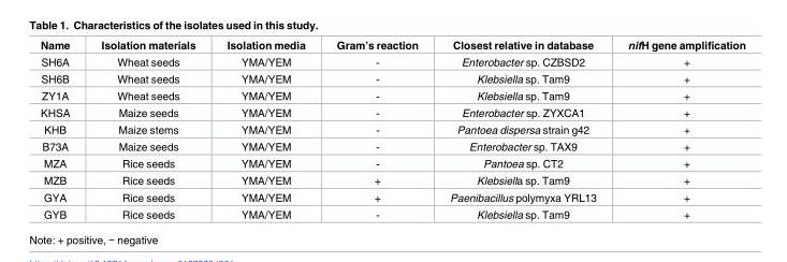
<table><thead><tr><td>Name</td><td>Isolation materials</td><td>Isolation media</td><td>Gram’s reaction</td><td>Closest relative in database</td><td>nifH gene amplification</td></tr></thead><tbody><tr><td>SH6A</td><td>Wheat seeds</td><td>YMA/YEM</td><td>-</td><td>Enterobacter sp. CZBSD2</td><td>+</td></tr><tr><td>SH6B</td><td>Wheat seeds</td><td>YMA/YEM</td><td>-</td><td>Klebsiella sp. Tam9</td><td>+</td></tr><tr><td>ZY1A</td><td>Wheat seeds</td><td>YMA/YEM</td><td>-</td><td>Klebsiella sp. Tam9</td><td>+</td></tr><tr><td>KHSA</td><td>Maize seeds</td><td>YMA/YEM</td><td>-</td><td>Enterobacter sp. ZYXCA1</td><td>+</td></tr><tr><td>KHB</td><td>Maize stems</td><td>YMA/YEM</td><td>-</td><td>Pantoea dispersa strain g42</td><td>+</td></tr><tr><td>B73A</td><td>Maize seeds</td><td>YMA/YEM</td><td>-</td><td>Enterobacter sp. TAX9</td><td>+</td></tr><tr><td>MZA</td><td>Rice seeds</td><td>YMA/YEM</td><td>-</td><td>Pantoea sp. CT2</td><td>+</td></tr><tr><td>MZB</td><td>Rice seeds</td><td>YMA/YEM</td><td>+</td><td>Klebsiella sp. Tam9</td><td>+</td></tr><tr><td>GYA</td><td>Rice seeds</td><td>YMA/YEM</td><td>+</td><td>Paenibacillus polymyxa YRL13</td><td>+</td></tr><tr><td>GYB</td><td>Rice seeds</td><td>YMA/YEM</td><td>-</td><td>Klebsiella sp. Tam9</td><td>+</td></tr></tbody></table>